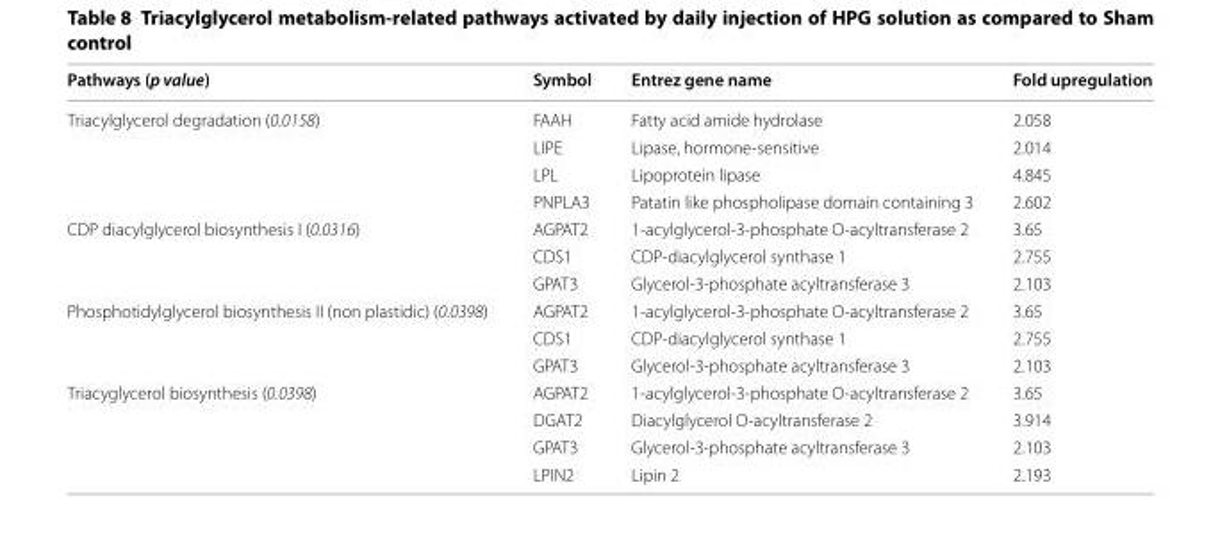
<table><thead><tr><td>Pathways (p value)</td><td>Symbol</td><td>Entrez gene name</td><td>Fold upregulation</td></tr></thead><tbody><tr><td rowspan="4">Triacylglycerol degradation (0.0158)</td><td>FAAH</td><td>Fatty acid amide hydrolase</td><td>2.058</td></tr><tr><td>LIPE</td><td>Lipase, hormone-sensitive</td><td>2.014</td></tr><tr><td>LPL</td><td>Lipoprotein lipase</td><td>4.845</td></tr><tr><td>PNPLA3</td><td>Patatin like phospholipase domain containing 3</td><td>2.602</td></tr><tr><td rowspan="3">CDP diacylglycerol biosynthesis I (0.0316)</td><td>AGPAT2</td><td>1-acylglycerol-3-phosphate O-acyltransferase 2</td><td>3.65</td></tr><tr><td>CDS1</td><td>CDP-diacylglycerol synthase 1</td><td>2.755</td></tr><tr><td>GPAT3</td><td>Glycerol-3-phosphate acyltransferase 3</td><td>2.103</td></tr><tr><td rowspan="3">Phosphotidylglycerol biosynthesis II (non plastidic) (0.0398)</td><td>AGPAT2</td><td>1-acylglycerol-3-phosphate O-acyltransferase 2</td><td>3.65</td></tr><tr><td>CDS1</td><td>CDP-diacylglycerol synthase 1</td><td>2.755</td></tr><tr><td>GPAT3</td><td>Glycerol-3-phosphate acyltransferase 3</td><td>2.103</td></tr><tr><td rowspan="4">Triacyglycerol biosynthesis (0.0398)</td><td>AGPAT2</td><td>1-acylglycerol-3-phosphate O-acyltransferase 2</td><td>3.65</td></tr><tr><td>DGAT2</td><td>Diacylglycerol O-acyltransferase 2</td><td>3.914</td></tr><tr><td>GPAT3</td><td>Glycerol-3-phosphate acyltransferase 3</td><td>2.103</td></tr><tr><td>LPIN2</td><td>Lipin 2</td><td>2.193</td></tr></tbody></table>